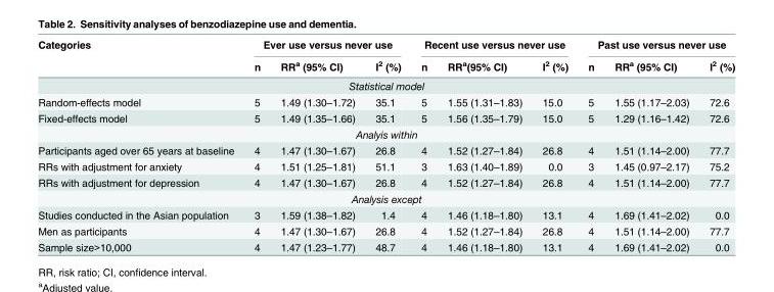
<table><thead><tr><td rowspan="2">Categories</td><td colspan="3">Ever use versus never use</td><td colspan="3">Recent use versus never use</td><td colspan="3">Past use versus never use</td></tr><tr><td>n</td><td>RR<sup>a</sup> (95% CI)</td><td>I<sup>2</sup> (%)</td><td>n</td><td>RR<sup>a</sup>(95% CI)</td><td>I<sup>2</sup> (%)</td><td>n</td><td>RR<sup>a</sup> (95% CI)</td><td>I<sup>2</sup> (%)</td></tr></thead><tbody><tr><td colspan="10">Statistical model</td></tr><tr><td>Random-effects model</td><td>5</td><td>1.49 (1.30–1.72)</td><td>35.1</td><td>5</td><td>1.55 (1.31–1.83)</td><td>15.0</td><td>5</td><td>1.55 (1.17–2.03)</td><td>72.6</td></tr><tr><td>Fixed-effects model</td><td>5</td><td>1.49 (1.35–1.66)</td><td>35.1</td><td>5</td><td>1.56 (1.35–1.79)</td><td>15.0</td><td>5</td><td>1.29 (1.16–1.42)</td><td>72.6</td></tr><tr><td colspan="10">Analyis within</td></tr><tr><td>Participants aged over 65 years at baseline</td><td>4</td><td>1.47 (1.30–1.67)</td><td>26.8</td><td>4</td><td>1.52 (1.27–1.84)</td><td>26.8</td><td>4</td><td>1.51 (1.14–2.00)</td><td>77.7</td></tr><tr><td>RRs with adjustment for anxiety</td><td>4</td><td>1.51 (1.25–1.81)</td><td>51.1</td><td>3</td><td>1.63 (1.40–1.89)</td><td>0.0</td><td>3</td><td>1.45 (0.97–2.17)</td><td>75.2</td></tr><tr><td>RRs with adjustment for depression</td><td>4</td><td>1.47 (1.30–1.67)</td><td>26.8</td><td>4</td><td>1.52 (1.27–1.84)</td><td>26.8</td><td>4</td><td>1.51 (1.14–2.00)</td><td>77.7</td></tr><tr><td colspan="10">Analysis except</td></tr><tr><td>Studies conducted in the Asian population</td><td>3</td><td>1.59 (1.38–1.82)</td><td>1.4</td><td>4</td><td>1.46 (1.18–1.80)</td><td>13.1</td><td>4</td><td>1.69 (1.41–2.02)</td><td>0.0</td></tr><tr><td>Men as participants</td><td>4</td><td>1.47 (1.30–1.67)</td><td>26.8</td><td>4</td><td>1.52 (1.27–1.84)</td><td>26.8</td><td>4</td><td>1.51 (1.14–2.00)</td><td>77.7</td></tr><tr><td>Sample size&gt;10,000</td><td>4</td><td>1.47 (1.23–1.77)</td><td>48.7</td><td>4</td><td>1.46 (1.18–1.80)</td><td>13.1</td><td>4</td><td>1.69 (1.41–2.02)</td><td>0.0</td></tr></tbody></table>